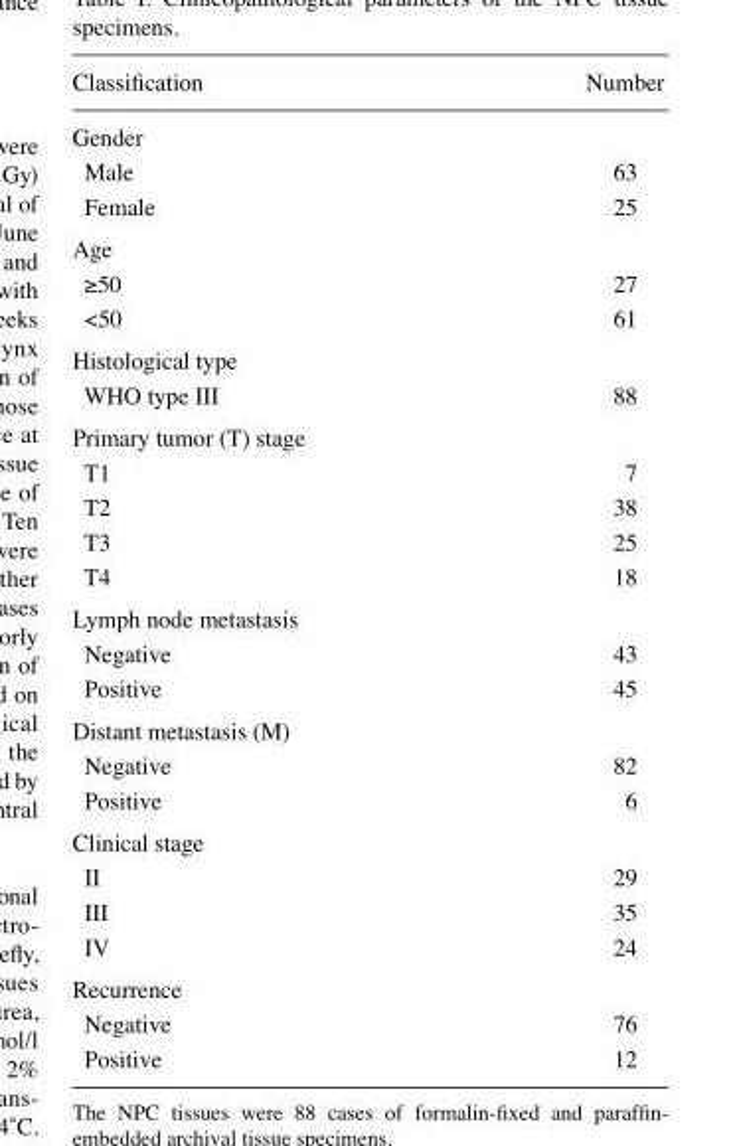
<table><thead><tr><td>Classification</td><td>Number</td></tr></thead><tbody><tr><td colspan="2">Gender</td></tr><tr><td>Male</td><td>63</td></tr><tr><td>Female</td><td>25</td></tr><tr><td colspan="2">Age</td></tr><tr><td>≥50</td><td>27</td></tr><tr><td>&lt;50</td><td>61</td></tr><tr><td colspan="2">Histological type</td></tr><tr><td>WHO type III</td><td>88</td></tr><tr><td colspan="2">Primary tumor (T) stage</td></tr><tr><td>T1</td><td>7</td></tr><tr><td>T2</td><td>38</td></tr><tr><td>T3</td><td>25</td></tr><tr><td>T4</td><td>18</td></tr><tr><td colspan="2">Lymph node metastasis</td></tr><tr><td>Negative</td><td>43</td></tr><tr><td>Positive</td><td>45</td></tr><tr><td colspan="2">Distant metastasis (M)</td></tr><tr><td>Negative</td><td>82</td></tr><tr><td>Positive</td><td>6</td></tr><tr><td colspan="2">Clinical stage</td></tr><tr><td>II</td><td>29</td></tr><tr><td>III</td><td>35</td></tr><tr><td>IV</td><td>24</td></tr><tr><td colspan="2">Recurrence</td></tr><tr><td>Negative</td><td>76</td></tr><tr><td>Positive</td><td>12</td></tr></tbody></table>